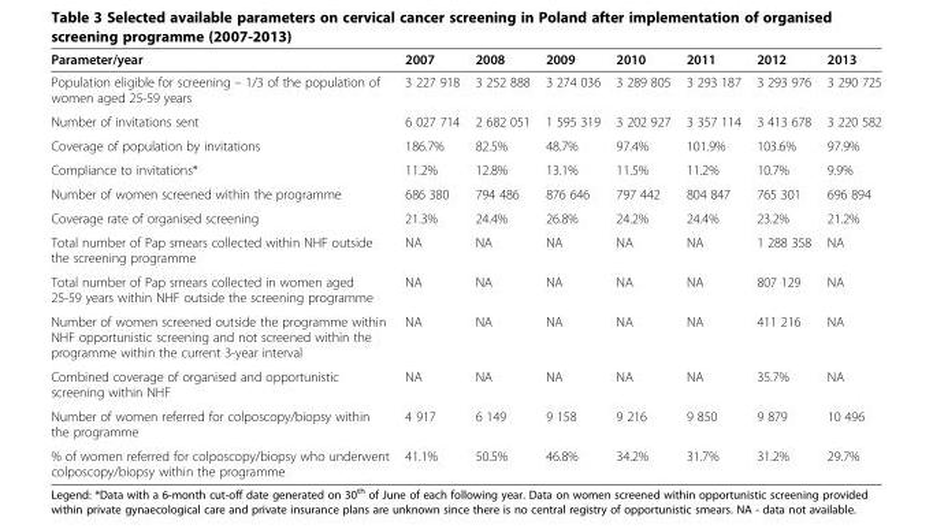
<table><thead><tr><td>Parameter/year</td><td>2007</td><td>2008</td><td>2009</td><td>2010</td><td>2011</td><td>2012</td><td>2013</td></tr></thead><tbody><tr><td>Population eligible for screening – 1/3 of the population of women aged 25-59 years</td><td>3 227 918</td><td>3 252 888</td><td>3 274 036</td><td>3 289 805</td><td>3 293 187</td><td>3 293 976</td><td>3 290 725</td></tr><tr><td>Number of invitations sent</td><td>6 027 714</td><td>2 682 051</td><td>1 595 319</td><td>3 202 927</td><td>3 357 114</td><td>3 413 678</td><td>3 220 582</td></tr><tr><td>Coverage of population by invitations</td><td>186.7%</td><td>82.5%</td><td>48.7%</td><td>97.4%</td><td>101.9%</td><td>103.6%</td><td>97.9%</td></tr><tr><td>Compliance to invitations*</td><td>11.2%</td><td>12.8%</td><td>13.1%</td><td>11.5%</td><td>11.2%</td><td>10.7%</td><td>9.9%</td></tr><tr><td>Number of women screened within the programme</td><td>686 380</td><td>794 486</td><td>876 646</td><td>797 442</td><td>804 847</td><td>765 301</td><td>696 894</td></tr><tr><td>Coverage rate of organised screening</td><td>21.3%</td><td>24.4%</td><td>26.8%</td><td>24.2%</td><td>24.4%</td><td>23.2%</td><td>21.2%</td></tr><tr><td>Total number of Pap smears collected within NHF outside the screening programme</td><td>NA</td><td>NA</td><td>NA</td><td>NA</td><td>NA</td><td>1 288 358</td><td>NA</td></tr><tr><td>Total number of Pap smears collected in women aged 25-59 years within NHF outside the screening programme</td><td>NA</td><td>NA</td><td>NA</td><td>NA</td><td>NA</td><td>807 129</td><td>NA</td></tr><tr><td>Number of women screened outside the programme within NHF opportunistic screening and not screened within the programme within the current 3-year interval</td><td>NA</td><td>NA</td><td>NA</td><td>NA</td><td>NA</td><td>411 216</td><td>NA</td></tr><tr><td>Combined coverage of organised and opportunistic screening within NHF</td><td>NA</td><td>NA</td><td>NA</td><td>NA</td><td>NA</td><td>35.7%</td><td>NA</td></tr><tr><td>Number of women referred for colposcopy/biopsy within the programme</td><td>4 917</td><td>6 149</td><td>9 158</td><td>9 216</td><td>9 850</td><td>9 879</td><td>10 496</td></tr><tr><td>% of women referred for colposcopy/biopsy who underwent colposcopy/biopsy within the programme</td><td>41.1%</td><td>50.5%</td><td>46.8%</td><td>34.2%</td><td>31.7%</td><td>31.2%</td><td>29.7%</td></tr></tbody></table>